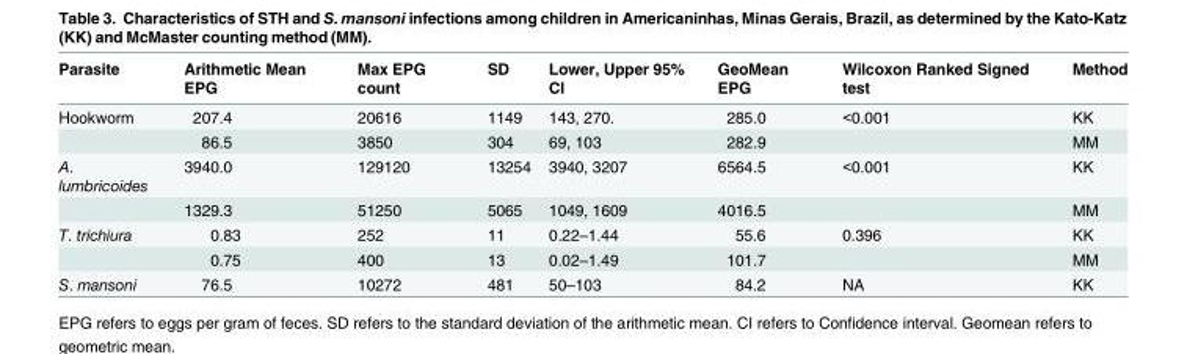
<table><thead><tr><td>Parasite</td><td>Arithmetic Mean EPG</td><td>Max EPG count</td><td>SD</td><td>Lower, Upper 95% CI</td><td>GeoMean EPG</td><td>Wilcoxon Ranked Signed test</td><td>Method</td></tr></thead><tbody><tr><td rowspan="2">Hookworm</td><td>207.4</td><td>20616</td><td>1149</td><td>143, 270.</td><td>285.0</td><td>&lt;0.001</td><td>KK</td></tr><tr><td>86.5</td><td>3850</td><td>304</td><td>69, 103</td><td>282.9</td><td></td><td>MM</td></tr><tr><td rowspan="2">A. lumbricoides</td><td>3940.0</td><td>129120</td><td>13254</td><td>3940, 3207</td><td>6564.5</td><td>&lt;0.001</td><td>KK</td></tr><tr><td>1329.3</td><td>51250</td><td>5065</td><td>1049, 1609</td><td>4016.5</td><td></td><td>MM</td></tr><tr><td rowspan="2">T. trichiura</td><td>0.83</td><td>252</td><td>11</td><td>0.22–1.44</td><td>55.6</td><td>0.396</td><td>KK</td></tr><tr><td>0.75</td><td>400</td><td>13</td><td>0.02–1.49</td><td>101.7</td><td></td><td>MM</td></tr><tr><td>S. mansoni</td><td>76.5</td><td>10272</td><td>481</td><td>50–103</td><td>84.2</td><td>NA</td><td>KK</td></tr></tbody></table>